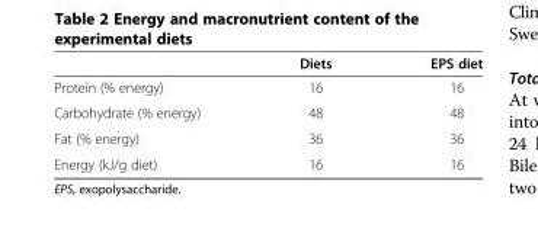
<table><thead><tr><td></td><td>Diets</td><td>EPS diet</td></tr></thead><tbody><tr><td>Protein (% energy)</td><td>16</td><td>16</td></tr><tr><td>Carbohydrate (% energy)</td><td>48</td><td>48</td></tr><tr><td>Fat (% energy)</td><td>36</td><td>36</td></tr><tr><td>Energy (kJ/g diet)</td><td>16</td><td>16</td></tr></tbody></table>